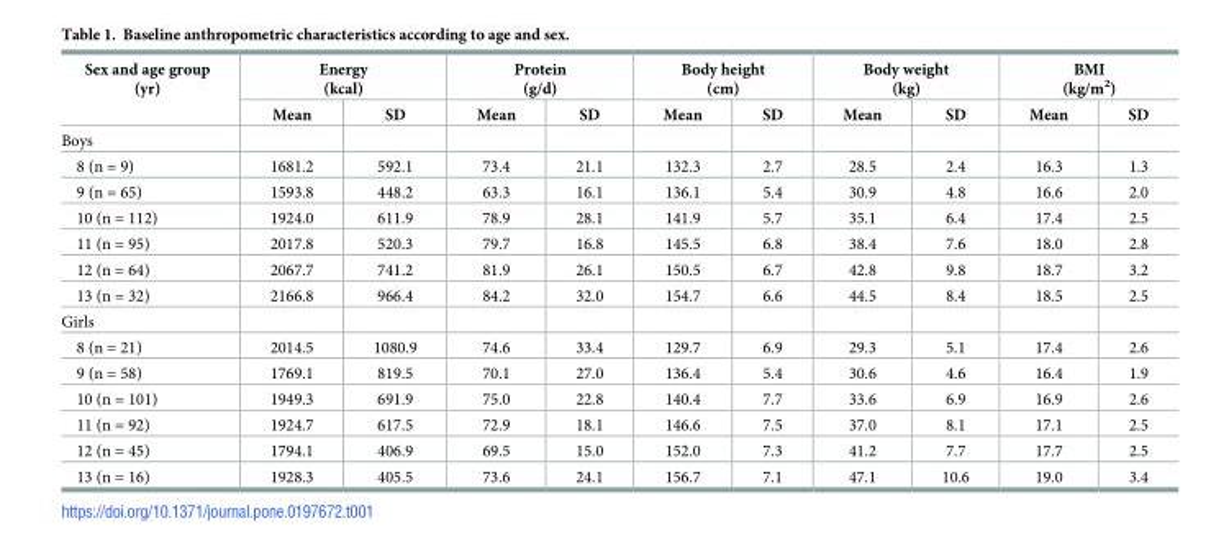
<table><thead><tr><td rowspan="2">Sex and age group (yr)</td><td colspan="2">Energy (kcal)</td><td colspan="2">Protein (g/d)</td><td colspan="2">Body height (cm)</td><td colspan="2">Body weight (kg)</td><td colspan="2">BMI (kg/m<sup>2</sup>)</td></tr><tr><td>Mean</td><td>SD</td><td>Mean</td><td>SD</td><td>Mean</td><td>SD</td><td>Mean</td><td>SD</td><td>Mean</td><td>SD</td></tr></thead><tbody><tr><td colspan="11">Boys</td></tr><tr><td>8 (n = 9)</td><td>1681.2</td><td>592.1</td><td>73.4</td><td>21.1</td><td>132.3</td><td>2.7</td><td>28.5</td><td>2.4</td><td>16.3</td><td>1.3</td></tr><tr><td>9 (n = 65)</td><td>1593.8</td><td>448.2</td><td>63.3</td><td>16.1</td><td>136.1</td><td>5.4</td><td>30.9</td><td>4.8</td><td>16.6</td><td>2.0</td></tr><tr><td>10 (n = 112)</td><td>1924.0</td><td>611.9</td><td>78.9</td><td>28.1</td><td>141.9</td><td>5.7</td><td>35.1</td><td>6.4</td><td>17.4</td><td>2.5</td></tr><tr><td>11 (n = 95)</td><td>2017.8</td><td>520.3</td><td>79.7</td><td>16.8</td><td>145.5</td><td>6.8</td><td>38.4</td><td>7.6</td><td>18.0</td><td>2.8</td></tr><tr><td>12 (n = 64)</td><td>2067.7</td><td>741.2</td><td>81.9</td><td>26.1</td><td>150.5</td><td>6.7</td><td>42.8</td><td>9.8</td><td>18.7</td><td>3.2</td></tr><tr><td>13 (n = 32)</td><td>2166.8</td><td>966.4</td><td>84.2</td><td>32.0</td><td>154.7</td><td>6.6</td><td>44.5</td><td>8.4</td><td>18.5</td><td>2.5</td></tr><tr><td colspan="11">Girls</td></tr><tr><td>8 (n = 21)</td><td>2014.5</td><td>1080.9</td><td>74.6</td><td>33.4</td><td>129.7</td><td>6.9</td><td>29.3</td><td>5.1</td><td>17.4</td><td>2.6</td></tr><tr><td>9 (n = 58)</td><td>1769.1</td><td>819.5</td><td>70.1</td><td>27.0</td><td>136.4</td><td>5.4</td><td>30.6</td><td>4.6</td><td>16.4</td><td>1.9</td></tr><tr><td>10 (n = 101)</td><td>1949.3</td><td>691.9</td><td>75.0</td><td>22.8</td><td>140.4</td><td>7.7</td><td>33.6</td><td>6.9</td><td>16.9</td><td>2.6</td></tr><tr><td>11 (n = 92)</td><td>1924.7</td><td>617.5</td><td>72.9</td><td>18.1</td><td>146.6</td><td>7.5</td><td>37.0</td><td>8.1</td><td>17.1</td><td>2.5</td></tr><tr><td>12 (n = 45)</td><td>1794.1</td><td>406.9</td><td>69.5</td><td>15.0</td><td>152.0</td><td>7.3</td><td>41.2</td><td>7.7</td><td>17.7</td><td>2.5</td></tr><tr><td>13 (n = 16)</td><td>1928.3</td><td>405.5</td><td>73.6</td><td>24.1</td><td>156.7</td><td>7.1</td><td>47.1</td><td>10.6</td><td>19.0</td><td>3.4</td></tr></tbody></table>